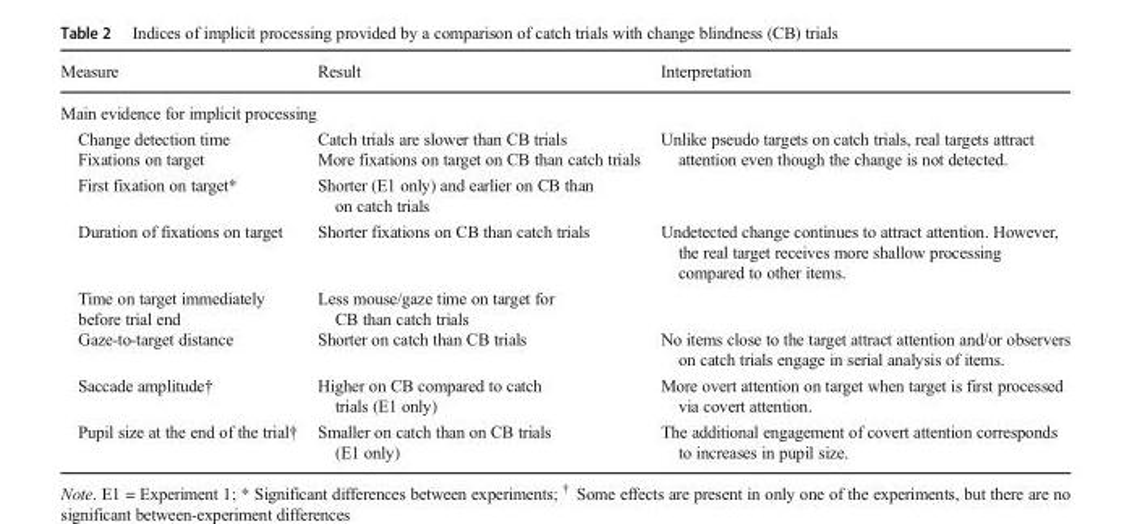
<table><thead><tr><td>Measure</td><td>Result</td><td>Interpretation</td></tr></thead><tbody><tr><td colspan="3">Main evidence for implicit processing</td></tr><tr><td>Change detection time</td><td>Catch trials are slower than CB trials</td><td rowspan="3">Unlike pseudo targets on catch trials, real targets attract attention even though the change is not detected.</td></tr><tr><td>Fixations on target</td><td>More fixations on target on CB than catch trials</td></tr><tr><td>First fixation on target*</td><td>Shorter (E1 only) and earlier on CB than on catch trials</td></tr><tr><td>Duration of fixations on target</td><td>Shorter fixations on CB than catch trials</td><td>Undetected change continues to attract attention. However, the real target receives more shallow processing compared to other items.</td></tr><tr><td>Time on target immediately before trial end</td><td>Less mouse/gaze time on target for CB than catch trials</td><td></td></tr><tr><td>Gaze-to-target distance</td><td>Shorter on catch than CB trials</td><td>No items close to the target attract attention and/or observers on catch trials engage in serial analysis of items.</td></tr><tr><td>Saccade amplitude†</td><td>Higher on CB compared to catch trials (E1 only)</td><td>More overt attention on target when target is first processed via covert attention.</td></tr><tr><td>Pupil size at the end of the trial†</td><td>Smaller on catch than on CB trials (E1 only)</td><td>The additional engagement of covert attention corresponds to increases in pupil size.</td></tr></tbody></table>